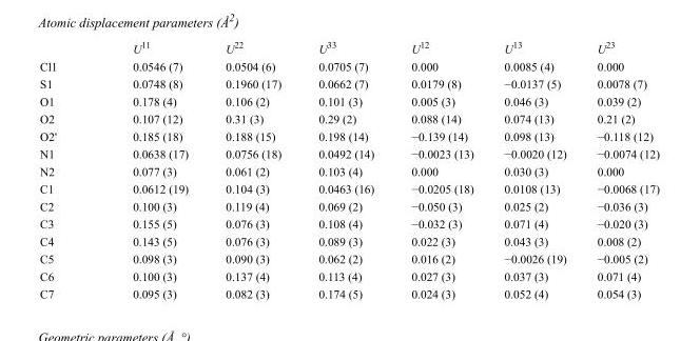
<table><thead><tr><td></td><td>U<sup>11</sup></td><td>U<sup>22</sup></td><td>U<sup>33</sup></td><td>U<sup>12</sup></td><td>U<sup>13</sup></td><td>U<sup>23</sup></td></tr></thead><tbody><tr><td>Cl1</td><td>0.0546 (7)</td><td>0.0504 (6)</td><td>0.0705 (7)</td><td>0.000</td><td>0.0085 (4)</td><td>0.000</td></tr><tr><td>S1</td><td>0.0748 (8)</td><td>0.1960 (17)</td><td>0.0662 (7)</td><td>0.0179 (8)</td><td>−0.0137 (5)</td><td>0.0078 (7)</td></tr><tr><td>O1</td><td>0.178 (4)</td><td>0.106 (2)</td><td>0.101 (3)</td><td>0.005 (3)</td><td>0.046 (3)</td><td>0.039 (2)</td></tr><tr><td>O2</td><td>0.107 (12)</td><td>0.31 (3)</td><td>0.29 (2)</td><td>0.088 (14)</td><td>0.074 (13)</td><td>0.21 (2)</td></tr><tr><td>O2&#x27;</td><td>0.185 (18)</td><td>0.188 (15)</td><td>0.198 (14)</td><td>−0.139 (14)</td><td>0.098 (13)</td><td>−0.118 (12)</td></tr><tr><td>N1</td><td>0.0638 (17)</td><td>0.0756 (18)</td><td>0.0492 (14)</td><td>−0.0023 (13)</td><td>−0.0020 (12)</td><td>−0.0074 (12)</td></tr><tr><td>N2</td><td>0.077 (3)</td><td>0.061 (2)</td><td>0.103 (4)</td><td>0.000</td><td>0.030 (3)</td><td>0.000</td></tr><tr><td>C1</td><td>0.0612 (19)</td><td>0.104 (3)</td><td>0.0463 (16)</td><td>−0.0205 (18)</td><td>0.0108 (13)</td><td>−0.0068 (17)</td></tr><tr><td>C2</td><td>0.100 (3)</td><td>0.119 (4)</td><td>0.069 (2)</td><td>−0.050 (3)</td><td>0.025 (2)</td><td>−0.036 (3)</td></tr><tr><td>C3</td><td>0.155 (5)</td><td>0.076 (3)</td><td>0.108 (4)</td><td>−0.032 (3)</td><td>0.071 (4)</td><td>−0.020 (3)</td></tr><tr><td>C4</td><td>0.143 (5)</td><td>0.076 (3)</td><td>0.089 (3)</td><td>0.022 (3)</td><td>0.043 (3)</td><td>0.008 (2)</td></tr><tr><td>C5</td><td>0.098 (3)</td><td>0.090 (3)</td><td>0.062 (2)</td><td>0.016 (2)</td><td>−0.0026 (19)</td><td>−0.005 (2)</td></tr><tr><td>C6</td><td>0.100 (3)</td><td>0.137 (4)</td><td>0.113 (4)</td><td>0.027 (3)</td><td>0.037 (3)</td><td>0.071 (4)</td></tr><tr><td>C7</td><td>0.095 (3)</td><td>0.082 (3)</td><td>0.174 (5)</td><td>0.024 (3)</td><td>0.052 (4)</td><td>0.054 (3)</td></tr></tbody></table>